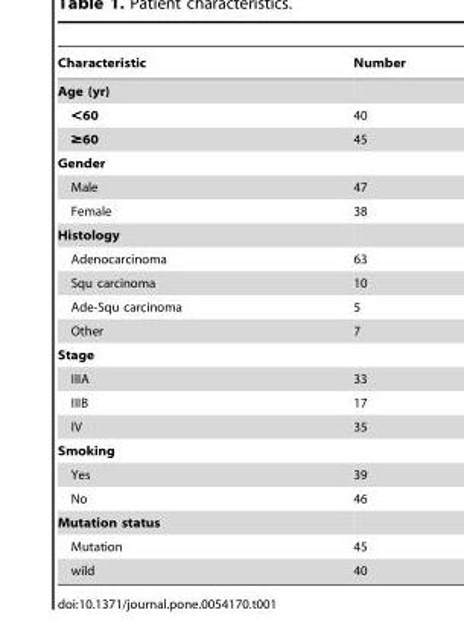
<table><thead><tr><td>Characteristic</td><td>Number</td></tr></thead><tbody><tr><td colspan="2">Age (yr)</td></tr><tr><td>&lt;60</td><td>40</td></tr><tr><td>≥60</td><td>45</td></tr><tr><td colspan="2">Gender</td></tr><tr><td>Male</td><td>47</td></tr><tr><td>Female</td><td>38</td></tr><tr><td colspan="2">Histology</td></tr><tr><td>Adenocarcinoma</td><td>63</td></tr><tr><td>Squ carcinoma</td><td>10</td></tr><tr><td>Ade-Squ carcinoma</td><td>5</td></tr><tr><td>Other</td><td>7</td></tr><tr><td colspan="2">Stage</td></tr><tr><td>IIIA</td><td>33</td></tr><tr><td>IIIB</td><td>17</td></tr><tr><td>IV</td><td>35</td></tr><tr><td colspan="2">Smoking</td></tr><tr><td>Yes</td><td>39</td></tr><tr><td>No</td><td>46</td></tr><tr><td colspan="2">Mutation status</td></tr><tr><td>Mutation</td><td>45</td></tr><tr><td>wild</td><td>40</td></tr></tbody></table>